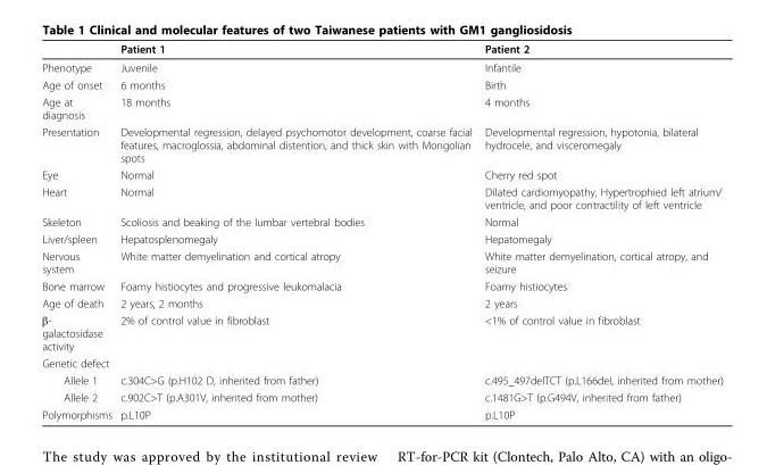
<table><thead><tr><td></td><td>Patient 1</td><td>Patient 2</td></tr></thead><tbody><tr><td>Phenotype</td><td>Juvenile</td><td>Infantile</td></tr><tr><td>Age of onset</td><td>6 months</td><td>Birth</td></tr><tr><td>Age at diagnosis</td><td>18 months</td><td>4 months</td></tr><tr><td>Presentation</td><td>Developmental regression, delayed psychomotor development, coarse facial features, macroglossia, abdominal distention, and thick skin with Mongolian spots</td><td>Developmental regression, hypotonia, bilateral hydrocele, and visceromegaly</td></tr><tr><td>Eye</td><td>Normal</td><td>Cherry red spot</td></tr><tr><td>Heart</td><td>Normal</td><td>Dilated cardiomyopathy, Hypertrophied left atrium/ ventricle, and poor contractility of left ventricle</td></tr><tr><td>Skeleton</td><td>Scoliosis and beaking of the lumbar vertebral bodies</td><td>Normal</td></tr><tr><td>Liver/spleen</td><td>Hepatosplenomegaly</td><td>Hepatomegaly</td></tr><tr><td>Nervous system</td><td>White matter demyelination and cortical atropy</td><td>White matter demyelination, cortical atropy, and seizure</td></tr><tr><td>Bone marrow</td><td>Foamy histiocytes and progressive leukomalacia</td><td>Foamy histiocytes</td></tr><tr><td>Age of death</td><td>2 years, 2 months</td><td>2 years</td></tr><tr><td>β- galactosidase activity</td><td>2% of control value in fibroblast</td><td>&lt;1% of control value in fibroblast</td></tr><tr><td colspan="3">Genetic defect</td></tr><tr><td>Allele 1</td><td>c.304C&gt;G (p.H102 D, inherited from father)</td><td>c.495_497delTCT (p.L166del, inherited from mother)</td></tr><tr><td>Allele 2</td><td>c.902C&gt;T (p.A301V, inherited from mother)</td><td>c.1481G&gt;T (p.G494V, inherited from father)</td></tr><tr><td>Polymorphisms</td><td>p.L10P</td><td>p.L10P</td></tr></tbody></table>